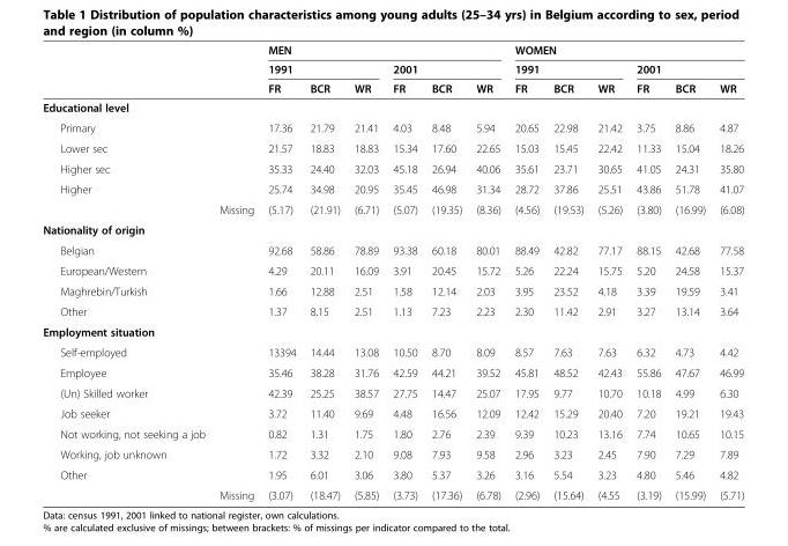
<table><thead><tr><td rowspan="3"></td><td rowspan="3"></td><td colspan="6">MEN</td><td colspan="6">WOMEN</td></tr><tr><td colspan="3">1991</td><td colspan="3">2001</td><td colspan="3">1991</td><td colspan="3">2001</td></tr><tr><td>FR</td><td>BCR</td><td>WR</td><td>FR</td><td>BCR</td><td>WR</td><td>FR</td><td>BCR</td><td>WR</td><td>FR</td><td>BCR</td><td>WR</td></tr></thead><tbody><tr><td colspan="14">Educational level</td></tr><tr><td>Primary</td><td></td><td>17.36</td><td>21.79</td><td>21.41</td><td>4.03</td><td>8.48</td><td>5.94</td><td>20.65</td><td>22.98</td><td>21.42</td><td>3.75</td><td>8.86</td><td>4.87</td></tr><tr><td>Lower sec</td><td></td><td>21.57</td><td>18.83</td><td>18.83</td><td>15.34</td><td>17.60</td><td>22.65</td><td>15.03</td><td>15.45</td><td>22.42</td><td>11.33</td><td>15.04</td><td>18.26</td></tr><tr><td>Higher sec</td><td></td><td>35.33</td><td>24.40</td><td>32.03</td><td>45.18</td><td>26.94</td><td>40.06</td><td>35.61</td><td>23.71</td><td>30.65</td><td>41.05</td><td>24.31</td><td>35.80</td></tr><tr><td rowspan="2">Higher</td><td></td><td>25.74</td><td>34.98</td><td>20.95</td><td>35.45</td><td>46.98</td><td>31.34</td><td>28.72</td><td>37.86</td><td>25.51</td><td>43.86</td><td>51.78</td><td>41.07</td></tr><tr><td>Missing</td><td>(5.17)</td><td>(21.91)</td><td>(6.71)</td><td>(5.07)</td><td>(19.35)</td><td>(8.36)</td><td>(4.56)</td><td>(19.53)</td><td>(5.26)</td><td>(3.80)</td><td>(16.99)</td><td>(6.08)</td></tr><tr><td colspan="14">Nationality of origin</td></tr><tr><td>Belgian</td><td></td><td>92.68</td><td>58.86</td><td>78.89</td><td>93.38</td><td>60.18</td><td>80.01</td><td>88.49</td><td>42.82</td><td>77.17</td><td>88.15</td><td>42.68</td><td>77.58</td></tr><tr><td>European/Western</td><td></td><td>4.29</td><td>20.11</td><td>16.09</td><td>3.91</td><td>20.45</td><td>15.72</td><td>5.26</td><td>22.24</td><td>15.75</td><td>5.20</td><td>24.58</td><td>15.37</td></tr><tr><td>Maghrebin/Turkish</td><td></td><td>1.66</td><td>12.88</td><td>2.51</td><td>1.58</td><td>12.14</td><td>2.03</td><td>3.95</td><td>23.52</td><td>4.18</td><td>3.39</td><td>19.59</td><td>3.41</td></tr><tr><td>Other</td><td></td><td>1.37</td><td>8.15</td><td>2.51</td><td>1.13</td><td>7.23</td><td>2.23</td><td>2.30</td><td>11.42</td><td>2.91</td><td>3.27</td><td>13.14</td><td>3.64</td></tr><tr><td colspan="14">Employment situation</td></tr><tr><td>Self-employed</td><td></td><td>13394</td><td>14.44</td><td>13.08</td><td>10.50</td><td>8.70</td><td>8.09</td><td>8.57</td><td>7.63</td><td>7.63</td><td>6.32</td><td>4.73</td><td>4.42</td></tr><tr><td>Employee</td><td></td><td>35.46</td><td>38.28</td><td>31.76</td><td>42.59</td><td>44.21</td><td>39.52</td><td>45.81</td><td>48.52</td><td>42.43</td><td>55.86</td><td>47.67</td><td>46.99</td></tr><tr><td>(Un) Skilled worker</td><td></td><td>42.39</td><td>25.25</td><td>38.57</td><td>27.75</td><td>14.47</td><td>25.07</td><td>17.95</td><td>9.77</td><td>10.70</td><td>10.18</td><td>4.99</td><td>6.30</td></tr><tr><td>Job seeker</td><td></td><td>3.72</td><td>11.40</td><td>9.69</td><td>4.48</td><td>16.56</td><td>12.09</td><td>12.42</td><td>15.29</td><td>20.40</td><td>7.20</td><td>19.21</td><td>19.43</td></tr><tr><td>Not working, not seeking a job</td><td></td><td>0.82</td><td>1.31</td><td>1.75</td><td>1.80</td><td>2.76</td><td>2.39</td><td>9.39</td><td>10.23</td><td>13.16</td><td>7.74</td><td>10.65</td><td>10.15</td></tr><tr><td>Working, job unknown</td><td></td><td>1.72</td><td>3.32</td><td>2.10</td><td>9.08</td><td>7.93</td><td>9.58</td><td>2.96</td><td>3.23</td><td>2.45</td><td>7.90</td><td>7.29</td><td>7.89</td></tr><tr><td rowspan="2">Other</td><td></td><td>1.95</td><td>6.01</td><td>3.06</td><td>3.80</td><td>5.37</td><td>3.26</td><td>3.16</td><td>5.54</td><td>3.23</td><td>4.80</td><td>5.46</td><td>4.82</td></tr><tr><td>Missing</td><td>(3.07)</td><td>(18.47)</td><td>(5.85)</td><td>(3.73)</td><td>(17.36)</td><td>(6.78)</td><td>(2.96)</td><td>(15.64)</td><td>(4.55</td><td>(3.19)</td><td>(15.99)</td><td>(5.71)</td></tr></tbody></table>